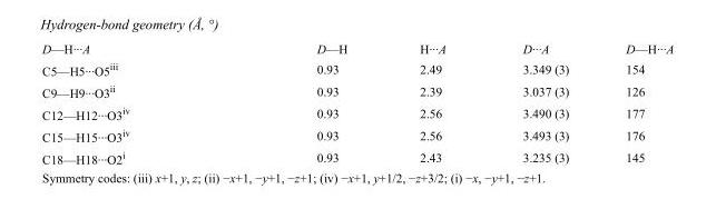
<table><tbody><tr><td>D—H···A</td><td>D—H</td><td>H···A</td><td>D···A</td><td>D—H···A</td></tr><tr><td>C5—H5···O5<sup>iii</sup></td><td>0.93</td><td>2.49</td><td>3.349 (3)</td><td>154</td></tr><tr><td>C9—H9···O3<sup>ii</sup></td><td>0.93</td><td>2.39</td><td>3.037 (3)</td><td>126</td></tr><tr><td>C12—H12···O3<sup>iv</sup></td><td>0.93</td><td>2.56</td><td>3.490 (3)</td><td>177</td></tr><tr><td>C15—H15···O3<sup>iv</sup></td><td>0.93</td><td>2.56</td><td>3.493 (3)</td><td>176</td></tr><tr><td>C18—H18···O2<sup>i</sup></td><td>0.93</td><td>2.43</td><td>3.235 (3)</td><td>145</td></tr></tbody></table>